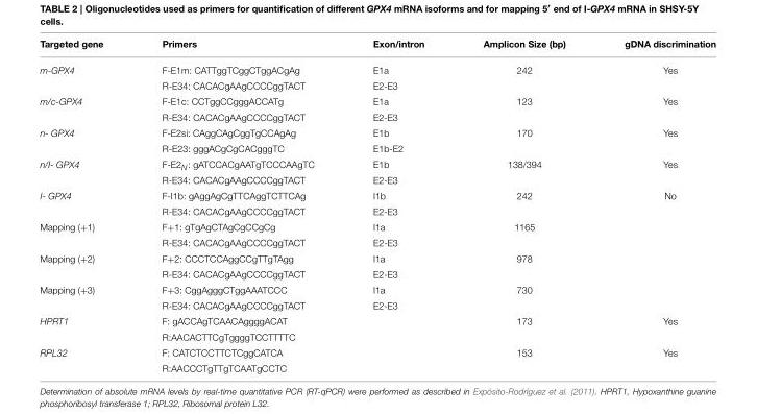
<table><thead><tr><td>Targeted gene</td><td>Primers</td><td>Exon/intron</td><td>Amplicon Size (bp)</td><td>gDNA discrimination</td></tr></thead><tbody><tr><td rowspan="2">m-GPX4</td><td>F-E1m: CATTggTCggCTggACgAg</td><td>E1a</td><td>242</td><td>Yes</td></tr><tr><td>R-E34: CACACgAAgCCCCggTACT</td><td>E2-E3</td><td></td><td></td></tr><tr><td rowspan="2">m/c-GPX4</td><td>F-E1c: CCTggCCgggACCATg</td><td>E1a</td><td>123</td><td>Yes</td></tr><tr><td>R-E34: CACACgAAgCCCCggTACT</td><td>E2-E3</td><td></td><td></td></tr><tr><td rowspan="2">n- GPX4</td><td>F-E2si: CAggCAgCggTgCCAgAg</td><td>E1b</td><td>170</td><td>Yes</td></tr><tr><td>R-E23: gggACgCgCACgggTC</td><td>E1b-E2</td><td></td><td></td></tr><tr><td rowspan="2">n/I- GPX4</td><td>F-E2<sub>N</sub>: gATCCACgAATgTCCCAAgTC</td><td>E1b</td><td>138/394</td><td>Yes</td></tr><tr><td>R-E34: CACACgAAgCCCCggTACT</td><td>E2-E3</td><td></td><td></td></tr><tr><td rowspan="2">I- GPX4</td><td>F-I1b: gAggAgCgTTCAggTCTTCAg</td><td>I1b</td><td>242</td><td>No</td></tr><tr><td>R-E34: CACACgAAgCCCCggTACT</td><td>E2-E3</td><td></td><td></td></tr><tr><td rowspan="2">Mapping (+1)</td><td>F+1: gTgAgCTAgCgCCgCg</td><td>I1a</td><td>1165</td><td></td></tr><tr><td>R-E34: CACACgAAgCCCCggTACT</td><td>E2-E3</td><td></td><td></td></tr><tr><td rowspan="2">Mapping (+2)</td><td>F+2: CCCTCCAggCCgTTgTAgg</td><td>I1a</td><td>978</td><td></td></tr><tr><td>R-E34: CACACgAAgCCCCggTACT</td><td>E2-E3</td><td></td><td></td></tr><tr><td rowspan="2">Mapping (+3)</td><td>F+3: CggAgggCTggAAATCCC</td><td>I1a</td><td>730</td><td></td></tr><tr><td>R-E34: CACACgAAgCCCCggTACT</td><td>E2-E3</td><td></td><td></td></tr><tr><td rowspan="2">HPRT1</td><td>F: gACCAgTCAACAggggACAT</td><td></td><td>173</td><td>Yes</td></tr><tr><td>R:AACACTTCgTggggTCCTTTTC</td><td></td><td></td><td></td></tr><tr><td rowspan="2">RPL32</td><td>F: CATCTCCTTCTCggCATCA</td><td></td><td>153</td><td>Yes</td></tr><tr><td>R:AACCCTgTTgTCAATgCCTC</td><td></td><td></td><td></td></tr></tbody></table>